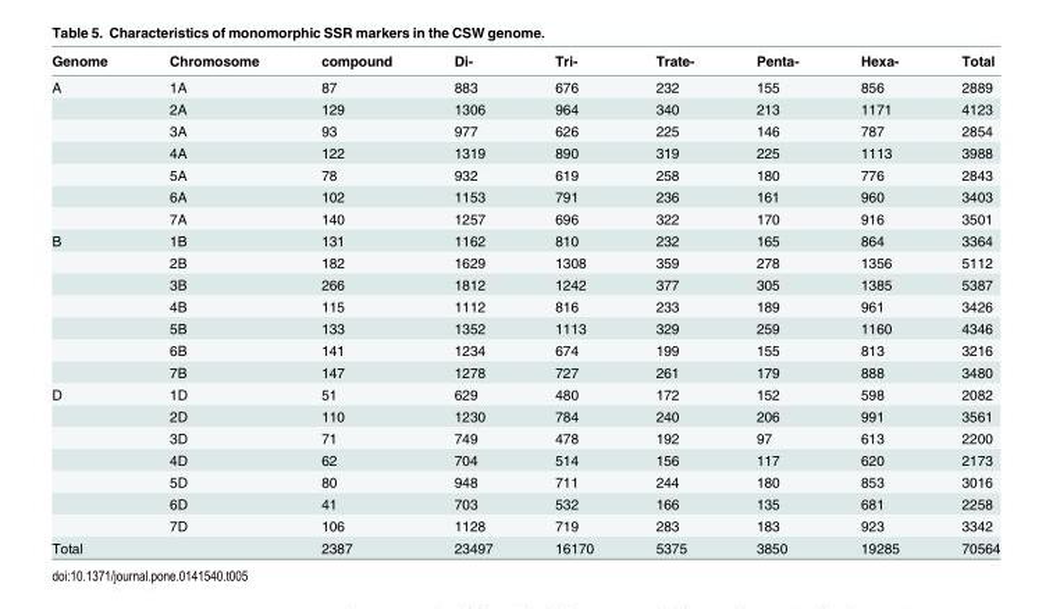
<table><thead><tr><td>Genome</td><td>Chromosome</td><td>compound</td><td>Di-</td><td>Tri-</td><td>Trate-</td><td>Penta-</td><td>Hexa-</td><td>Total</td></tr></thead><tbody><tr><td rowspan="7">A</td><td>1A</td><td>87</td><td>883</td><td>676</td><td>232</td><td>155</td><td>856</td><td>2889</td></tr><tr><td>2A</td><td>129</td><td>1306</td><td>964</td><td>340</td><td>213</td><td>1171</td><td>4123</td></tr><tr><td>3A</td><td>93</td><td>977</td><td>626</td><td>225</td><td>146</td><td>787</td><td>2854</td></tr><tr><td>4A</td><td>122</td><td>1319</td><td>890</td><td>319</td><td>225</td><td>1113</td><td>3988</td></tr><tr><td>5A</td><td>78</td><td>932</td><td>619</td><td>258</td><td>180</td><td>776</td><td>2843</td></tr><tr><td>6A</td><td>102</td><td>1153</td><td>791</td><td>236</td><td>161</td><td>960</td><td>3403</td></tr><tr><td>7A</td><td>140</td><td>1257</td><td>696</td><td>322</td><td>170</td><td>916</td><td>3501</td></tr><tr><td rowspan="7">B</td><td>1B</td><td>131</td><td>1162</td><td>810</td><td>232</td><td>165</td><td>864</td><td>3364</td></tr><tr><td>2B</td><td>182</td><td>1629</td><td>1308</td><td>359</td><td>278</td><td>1356</td><td>5112</td></tr><tr><td>3B</td><td>266</td><td>1812</td><td>1242</td><td>377</td><td>305</td><td>1385</td><td>5387</td></tr><tr><td>4B</td><td>115</td><td>1112</td><td>816</td><td>233</td><td>189</td><td>961</td><td>3426</td></tr><tr><td>5B</td><td>133</td><td>1352</td><td>1113</td><td>329</td><td>259</td><td>1160</td><td>4346</td></tr><tr><td>6B</td><td>141</td><td>1234</td><td>674</td><td>199</td><td>155</td><td>813</td><td>3216</td></tr><tr><td>7B</td><td>147</td><td>1278</td><td>727</td><td>261</td><td>179</td><td>888</td><td>3480</td></tr><tr><td rowspan="7">D</td><td>1D</td><td>51</td><td>629</td><td>480</td><td>172</td><td>152</td><td>598</td><td>2082</td></tr><tr><td>2D</td><td>110</td><td>1230</td><td>784</td><td>240</td><td>206</td><td>991</td><td>3561</td></tr><tr><td>3D</td><td>71</td><td>749</td><td>478</td><td>192</td><td>97</td><td>613</td><td>2200</td></tr><tr><td>4D</td><td>62</td><td>704</td><td>514</td><td>156</td><td>117</td><td>620</td><td>2173</td></tr><tr><td>5D</td><td>80</td><td>948</td><td>711</td><td>244</td><td>180</td><td>853</td><td>3016</td></tr><tr><td>6D</td><td>41</td><td>703</td><td>532</td><td>166</td><td>135</td><td>681</td><td>2258</td></tr><tr><td>7D</td><td>106</td><td>1128</td><td>719</td><td>283</td><td>183</td><td>923</td><td>3342</td></tr><tr><td>Total</td><td></td><td>2387</td><td>23497</td><td>16170</td><td>5375</td><td>3850</td><td>19285</td><td>70564</td></tr></tbody></table>